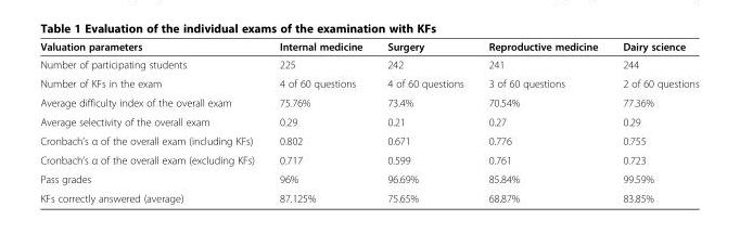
<table><thead><tr><td>Valuation parameters</td><td>Internal medicine</td><td>Surgery</td><td>Reproductive medicine</td><td>Dairy science</td></tr></thead><tbody><tr><td>Number of participating students</td><td>225</td><td>242</td><td>241</td><td>244</td></tr><tr><td>Number of KFs in the exam</td><td>4 of 60 questions</td><td>4 of 60 questions</td><td>3 of 60 questions</td><td>2 of 60 questions</td></tr><tr><td>Average difficulty index of the overall exam</td><td>75.76%</td><td>73.4%</td><td>70.54%</td><td>77.36%</td></tr><tr><td>Average selectivity of the overall exam</td><td>0.29</td><td>0.21</td><td>0.27</td><td>0.29</td></tr><tr><td>Cronbach’s α of the overall exam (including KFs)</td><td>0.802</td><td>0.671</td><td>0.776</td><td>0.755</td></tr><tr><td>Cronbach’s α of the overall exam (excluding KFs)</td><td>0.717</td><td>0.599</td><td>0.761</td><td>0.723</td></tr><tr><td>Pass grades</td><td>96%</td><td>96.69%</td><td>85.84%</td><td>99.59%</td></tr><tr><td>KFs correctly answered (average)</td><td>87.125%</td><td>75.65%</td><td>68.87%</td><td>83.85%</td></tr></tbody></table>